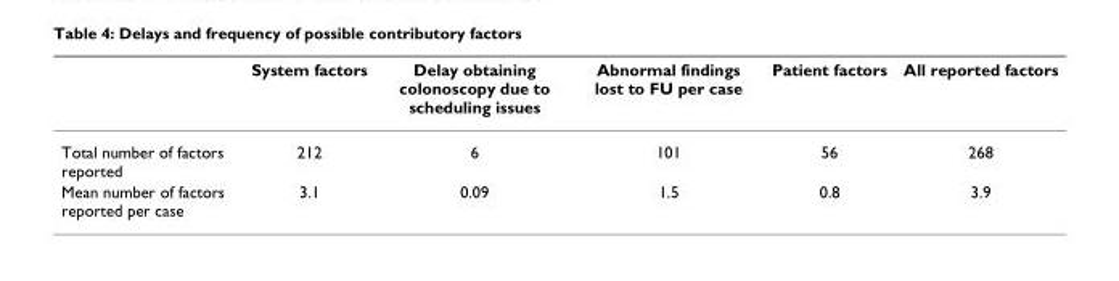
<table><thead><tr><td></td><td>System factors</td><td>Delay obtaining colonoscopy due to scheduling issues</td><td>Abnormal findings lost to FU per case</td><td>Patient factors</td><td>All reported factors</td></tr></thead><tbody><tr><td>Total number of factors reported</td><td>212</td><td>6</td><td>101</td><td>56</td><td>268</td></tr><tr><td>Mean number of factors reported per case</td><td>3.1</td><td>0.09</td><td>1.5</td><td>0.8</td><td>3.9</td></tr></tbody></table>